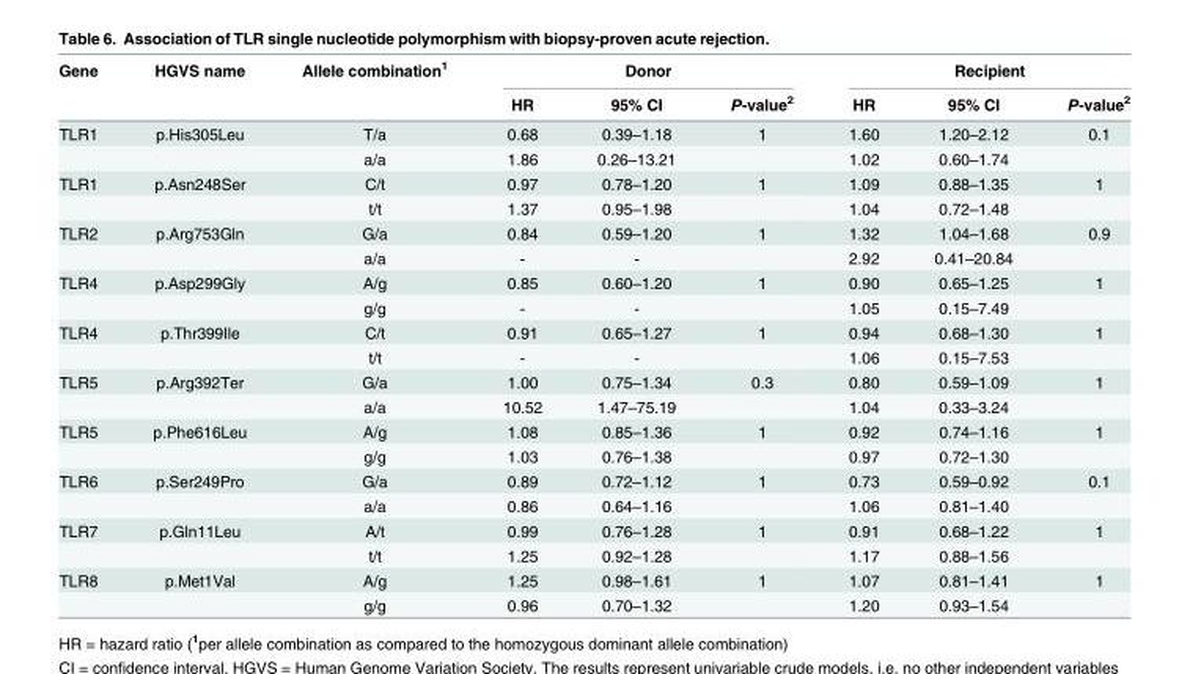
<table><thead><tr><td rowspan="2">Gene</td><td rowspan="2">HGVS name</td><td rowspan="2">Allele combination<sup>1</sup></td><td colspan="3">Donor</td><td colspan="3">Recipient</td></tr><tr><td>HR</td><td>95% CI</td><td>P-value<sup>2</sup></td><td>HR</td><td>95% CI</td><td>P-value<sup>2</sup></td></tr></thead><tbody><tr><td rowspan="2">TLR1</td><td>p.His305Leu</td><td>T/a</td><td>0.68</td><td>0.39–1.18</td><td>1</td><td>1.60</td><td>1.20–2.12</td><td>0.1</td></tr><tr><td></td><td>a/a</td><td>1.86</td><td>0.26–13.21</td><td></td><td>1.02</td><td>0.60–1.74</td><td></td></tr><tr><td rowspan="2">TLR1</td><td>p.Asn248Ser</td><td>C/t</td><td>0.97</td><td>0.78–1.20</td><td>1</td><td>1.09</td><td>0.88–1.35</td><td>1</td></tr><tr><td></td><td>t/t</td><td>1.37</td><td>0.95–1.98</td><td></td><td>1.04</td><td>0.72–1.48</td><td></td></tr><tr><td rowspan="2">TLR2</td><td>p.Arg753Gln</td><td>G/a</td><td>0.84</td><td>0.59–1.20</td><td>1</td><td>1.32</td><td>1.04–1.68</td><td>0.9</td></tr><tr><td></td><td>a/a</td><td>-</td><td>-</td><td></td><td>2.92</td><td>0.41–20.84</td><td></td></tr><tr><td rowspan="2">TLR4</td><td>p.Asp299Gly</td><td>A/g</td><td>0.85</td><td>0.60–1.20</td><td>1</td><td>0.90</td><td>0.65–1.25</td><td>1</td></tr><tr><td></td><td>g/g</td><td>-</td><td>-</td><td></td><td>1.05</td><td>0.15–7.49</td><td></td></tr><tr><td rowspan="2">TLR4</td><td>p.Thr399Ile</td><td>C/t</td><td>0.91</td><td>0.65–1.27</td><td>1</td><td>0.94</td><td>0.68–1.30</td><td>1</td></tr><tr><td></td><td>t/t</td><td>-</td><td>-</td><td></td><td>1.06</td><td>0.15–7.53</td><td></td></tr><tr><td rowspan="2">TLR5</td><td>p.Arg392Ter</td><td>G/a</td><td>1.00</td><td>0.75–1.34</td><td>0.3</td><td>0.80</td><td>0.59–1.09</td><td>1</td></tr><tr><td></td><td>a/a</td><td>10.52</td><td>1.47–75.19</td><td></td><td>1.04</td><td>0.33–3.24</td><td></td></tr><tr><td rowspan="2">TLR5</td><td>p.Phe616Leu</td><td>A/g</td><td>1.08</td><td>0.85–1.36</td><td>1</td><td>0.92</td><td>0.74–1.16</td><td>1</td></tr><tr><td></td><td>g/g</td><td>1.03</td><td>0.76–1.38</td><td></td><td>0.97</td><td>0.72–1.30</td><td></td></tr><tr><td rowspan="2">TLR6</td><td>p.Ser249Pro</td><td>G/a</td><td>0.89</td><td>0.72–1.12</td><td>1</td><td>0.73</td><td>0.59–0.92</td><td>0.1</td></tr><tr><td></td><td>a/a</td><td>0.86</td><td>0.64–1.16</td><td></td><td>1.06</td><td>0.81–1.40</td><td></td></tr><tr><td rowspan="2">TLR7</td><td>p.Gln11Leu</td><td>A/t</td><td>0.99</td><td>0.76–1.28</td><td>1</td><td>0.91</td><td>0.68–1.22</td><td>1</td></tr><tr><td></td><td>t/t</td><td>1.25</td><td>0.92–1.28</td><td></td><td>1.17</td><td>0.88–1.56</td><td></td></tr><tr><td rowspan="2">TLR8</td><td>p.Met1Val</td><td>A/g</td><td>1.25</td><td>0.98–1.61</td><td>1</td><td>1.07</td><td>0.81–1.41</td><td>1</td></tr><tr><td></td><td>g/g</td><td>0.96</td><td>0.70–1.32</td><td></td><td>1.20</td><td>0.93–1.54</td><td></td></tr></tbody></table>